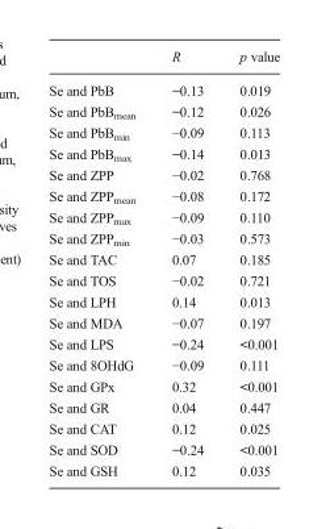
<table><thead><tr><td></td><td>R</td><td>p value</td></tr></thead><tbody><tr><td>Se and PbB</td><td>−0.13</td><td>0.019</td></tr><tr><td>Se and PbB<sub>mean</sub></td><td>−0.12</td><td>0.026</td></tr><tr><td>Se and PbB<sub>min</sub></td><td>−0.09</td><td>0.113</td></tr><tr><td>Se and PbB<sub>max</sub></td><td>−0.14</td><td>0.013</td></tr><tr><td>Se and ZPP</td><td>−0.02</td><td>0.768</td></tr><tr><td>Se and ZPP<sub>mean</sub></td><td>−0.08</td><td>0.172</td></tr><tr><td>Se and ZPP<sub>max</sub></td><td>−0.09</td><td>0.110</td></tr><tr><td>Se and ZPP<sub>min</sub></td><td>−0.03</td><td>0.573</td></tr><tr><td>Se and TAC</td><td>0.07</td><td>0.185</td></tr><tr><td>Se and TOS</td><td>−0.02</td><td>0.721</td></tr><tr><td>Se and LPH</td><td>0.14</td><td>0.013</td></tr><tr><td>Se and MDA</td><td>−0.07</td><td>0.197</td></tr><tr><td>Se and LPS</td><td>−0.24</td><td>&lt;0.001</td></tr><tr><td>Se and 8OHdG</td><td>−0.09</td><td>0.111</td></tr><tr><td>Se and GPx</td><td>0.32</td><td>&lt;0.001</td></tr><tr><td>Se and GR</td><td>0.04</td><td>0.447</td></tr><tr><td>Se and CAT</td><td>0.12</td><td>0.025</td></tr><tr><td>Se and SOD</td><td>−0.24</td><td>&lt;0.001</td></tr><tr><td>Se and GSH</td><td>0.12</td><td>0.035</td></tr></tbody></table>